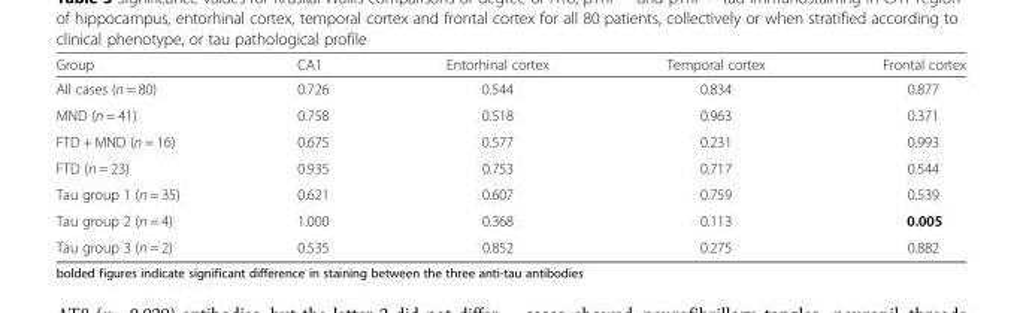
<table><thead><tr><td>Group</td><td>CA1</td><td>Entorhinal cortex</td><td>Temporal cortex</td><td>Frontal cortex</td></tr></thead><tbody><tr><td>All cases (n = 80)</td><td>0.726</td><td>0.544</td><td>0.834</td><td>0.877</td></tr><tr><td>MND (n = 41)</td><td>0.758</td><td>0.518</td><td>0.963</td><td>0.371</td></tr><tr><td>FTD + MND (n = 16)</td><td>0.675</td><td>0.577</td><td>0.231</td><td>0.993</td></tr><tr><td>FTD (n = 23)</td><td>0.935</td><td>0.753</td><td>0.717</td><td>0.544</td></tr><tr><td>Tau group 1 (n = 35)</td><td>0.621</td><td>0.607</td><td>0.759</td><td>0.539</td></tr><tr><td>Tau group 2 (n = 4)</td><td>1.000</td><td>0.368</td><td>0.113</td><td>0.005</td></tr><tr><td>Tau group 3 (n = 2)</td><td>0.535</td><td>0.852</td><td>0.275</td><td>0.882</td></tr></tbody></table>